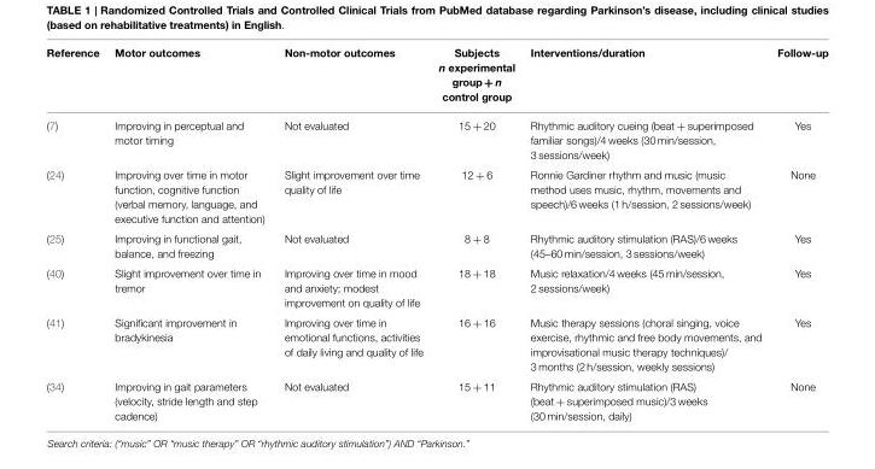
<table><thead><tr><td>Reference</td><td>Motor outcomes</td><td>Non-motor outcomes</td><td>Subjects n experimental group+ + + n control group</td><td>Interventions/duration</td><td>Follow-up</td></tr></thead><tbody><tr><td>(7)</td><td>Improving in perceptual and motor timing</td><td>Not evaluated</td><td>15 + 20</td><td>Rhythmic auditory cueing (beat + superimposed familiar songs)/4 weeks (30 min/session, 3 sessions/week)</td><td>Yes</td></tr><tr><td>(24)</td><td>Improving over time in motor function, cognitive function (verbal memory, language, and executive function and attention)</td><td>Slight improvement over time quality of life</td><td>12 + 6</td><td>Ronnie Gardiner rhythm and music (music method uses music, rhythm, movements and speech)/6 weeks (1 h/session, 2 sessions/week)</td><td>None</td></tr><tr><td>(25)</td><td>Improving in functional gait, balance, and freezing</td><td>Not evaluated</td><td>8 + 8</td><td>Rhythmic auditory stimulation (RAS)/6 weeks (45–60 min/session, 3 sessions/week)</td><td>Yes</td></tr><tr><td>(40)</td><td>Slight improvement over time in tremor</td><td>Improving over time in mood and anxiety; modest improvement on quality of life</td><td>18 + 18</td><td>Music relaxation/4 weeks (45 min/session, 2 sessions/week)</td><td>Yes</td></tr><tr><td>(41)</td><td>Significant improvement in bradykinesia</td><td>Improving over time in emotional functions, activities of daily living and quality of life</td><td>16 + 16</td><td>Music therapy sessions (choral singing, voice exercise, rhythmic and free body movements, and improvisational music therapy techniques)/ 3 months (2 h/session, weekly sessions)</td><td>Yes</td></tr><tr><td>(34)</td><td>Improving in gait parameters (velocity, stride length and step cadence)</td><td>Not evaluated</td><td>15 + 11</td><td>Rhythmic auditory stimulation (RAS) (beat + superimposed music)/3 weeks (30 min/session, daily)</td><td>None</td></tr></tbody></table>